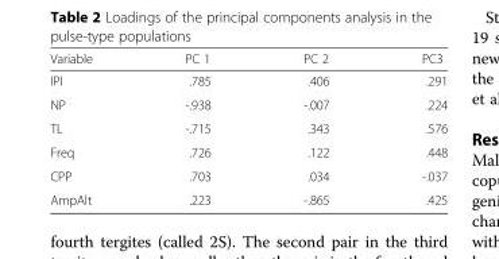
<table><thead><tr><td>Variable</td><td>PC 1</td><td>PC 2</td><td>PC3</td></tr></thead><tbody><tr><td>IPI</td><td>.785</td><td>.406</td><td>.291</td></tr><tr><td>NP</td><td>-.938</td><td>-.007</td><td>.224</td></tr><tr><td>TL</td><td>-.715</td><td>.343</td><td>.576</td></tr><tr><td>Freq</td><td>.726</td><td>.122</td><td>.448</td></tr><tr><td>CPP</td><td>.703</td><td>.034</td><td>-.037</td></tr><tr><td>AmpAlt</td><td>.223</td><td>-.865</td><td>.425</td></tr></tbody></table>